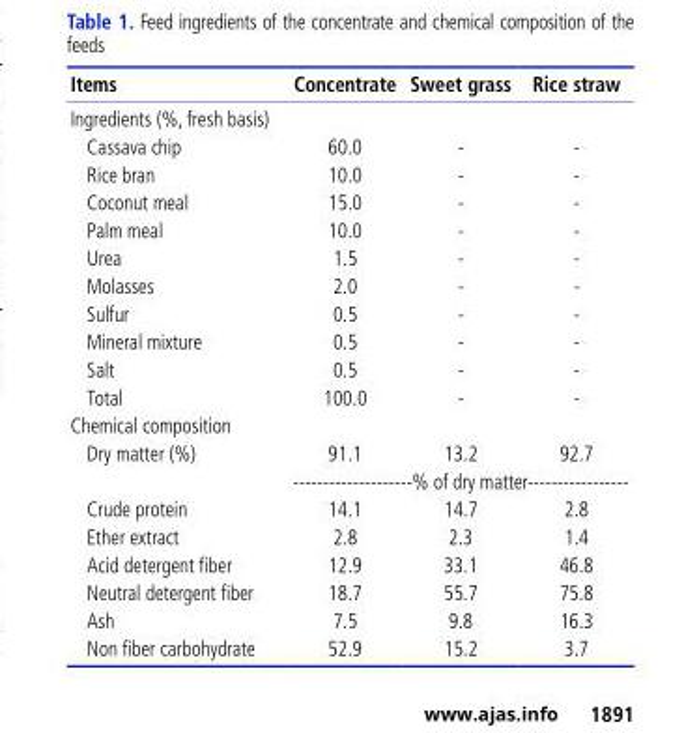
<table><thead><tr><td>Items</td><td>Concentrate</td><td>Sweet grass</td><td>Rice straw</td></tr></thead><tbody><tr><td colspan="4">Ingredients (%, fresh basis)</td></tr><tr><td>Cassava chip</td><td>60.0</td><td>-</td><td>-</td></tr><tr><td>Rice bran</td><td>10.0</td><td>-</td><td>-</td></tr><tr><td>Coconut meal</td><td>15.0</td><td>-</td><td>-</td></tr><tr><td>Palm meal</td><td>10.0</td><td>-</td><td>-</td></tr><tr><td>Urea</td><td>1.5</td><td>-</td><td>-</td></tr><tr><td>Molasses</td><td>2.0</td><td>-</td><td>-</td></tr><tr><td>Sulfur</td><td>0.5</td><td>-</td><td>-</td></tr><tr><td>Mineral mixture</td><td>0.5</td><td>-</td><td>-</td></tr><tr><td>Salt</td><td>0.5</td><td>-</td><td>-</td></tr><tr><td>Total</td><td>100.0</td><td>-</td><td>-</td></tr><tr><td colspan="4">Chemical composition</td></tr><tr><td rowspan="2">Dry matter (%)</td><td>91.1</td><td>13.2</td><td>92.7</td></tr><tr><td colspan="3">--------------------% of dry matter-----------------</td></tr><tr><td>Crude protein</td><td>14.1</td><td>14.7</td><td>2.8</td></tr><tr><td>Ether extract</td><td>2.8</td><td>2.3</td><td>1.4</td></tr><tr><td>Acid detergent fiber</td><td>12.9</td><td>33.1</td><td>46.8</td></tr><tr><td>Neutral detergent fiber</td><td>18.7</td><td>55.7</td><td>75.8</td></tr><tr><td>Ash</td><td>7.5</td><td>9.8</td><td>16.3</td></tr><tr><td>Non fiber carbohydrate</td><td>52.9</td><td>15.2</td><td>3.7</td></tr></tbody></table>